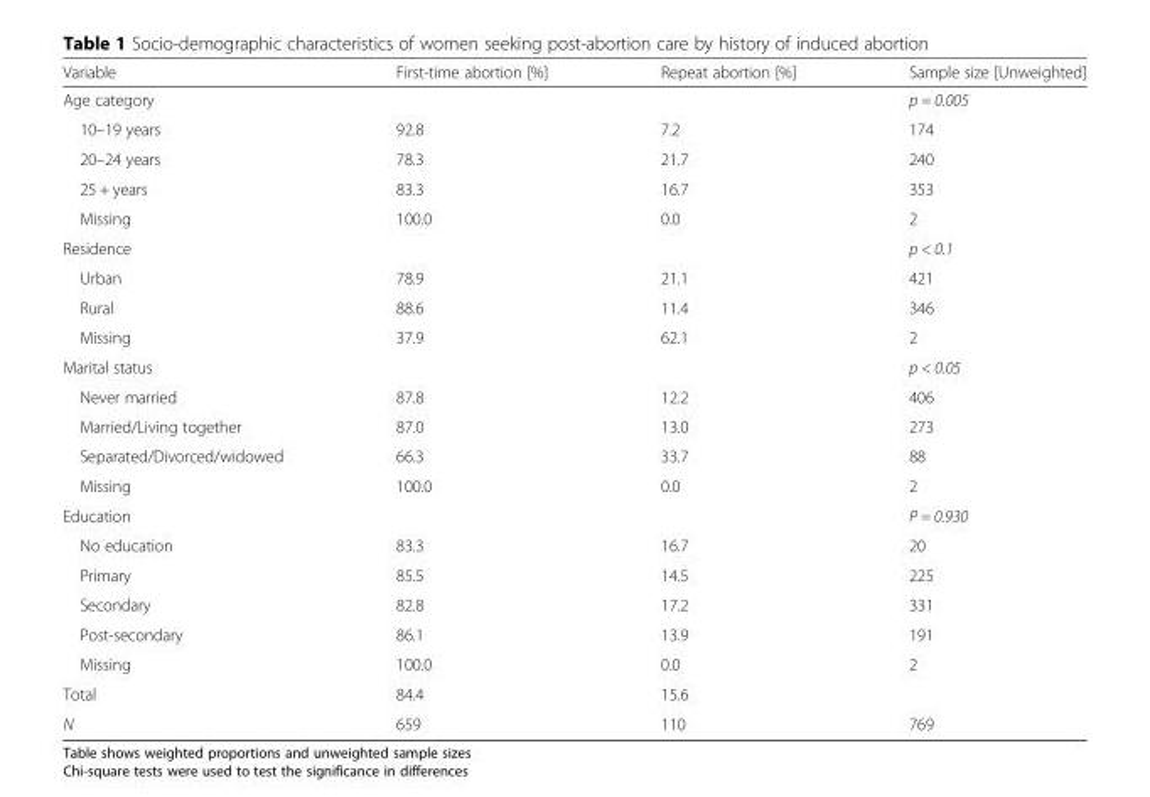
<table><thead><tr><td>Variable</td><td>First-time abortion [%]</td><td>Repeat abortion [%]</td><td>Sample size [Unweighted]</td></tr></thead><tbody><tr><td>Age category</td><td></td><td></td><td>p = 0.005</td></tr><tr><td>10–19 years</td><td>92.8</td><td>7.2</td><td>174</td></tr><tr><td>20–24 years</td><td>78.3</td><td>21.7</td><td>240</td></tr><tr><td>25 + years</td><td>83.3</td><td>16.7</td><td>353</td></tr><tr><td>Missing</td><td>100.0</td><td>0.0</td><td>2</td></tr><tr><td>Residence</td><td></td><td></td><td>p &lt; 0.1</td></tr><tr><td>Urban</td><td>78.9</td><td>21.1</td><td>421</td></tr><tr><td>Rural</td><td>88.6</td><td>11.4</td><td>346</td></tr><tr><td>Missing</td><td>37.9</td><td>62.1</td><td>2</td></tr><tr><td>Marital status</td><td></td><td></td><td>p &lt; 0.05</td></tr><tr><td>Never married</td><td>87.8</td><td>12.2</td><td>406</td></tr><tr><td>Married/Living together</td><td>87.0</td><td>13.0</td><td>273</td></tr><tr><td>Separated/Divorced/widowed</td><td>66.3</td><td>33.7</td><td>88</td></tr><tr><td>Missing</td><td>100.0</td><td>0.0</td><td>2</td></tr><tr><td>Education</td><td></td><td></td><td>P = 0.930</td></tr><tr><td>No education</td><td>83.3</td><td>16.7</td><td>20</td></tr><tr><td>Primary</td><td>85.5</td><td>14.5</td><td>225</td></tr><tr><td>Secondary</td><td>82.8</td><td>17.2</td><td>331</td></tr><tr><td>Post-secondary</td><td>86.1</td><td>13.9</td><td>191</td></tr><tr><td>Missing</td><td>100.0</td><td>0.0</td><td>2</td></tr><tr><td>Total</td><td>84.4</td><td>15.6</td><td></td></tr><tr><td>N</td><td>659</td><td>110</td><td>769</td></tr></tbody></table>